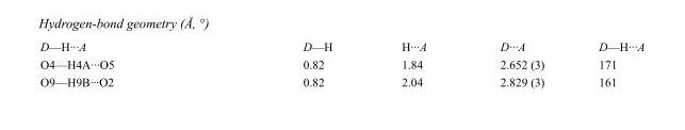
<table><tbody><tr><td>D—H···A</td><td>D—H</td><td>H···A</td><td>D···A</td><td>D—H···A</td></tr><tr><td>O4—H4A···O5</td><td>0.82</td><td>1.84</td><td>2.652 (3)</td><td>171</td></tr><tr><td>O9—H9B···O2</td><td>0.82</td><td>2.04</td><td>2.829 (3)</td><td>161</td></tr></tbody></table>